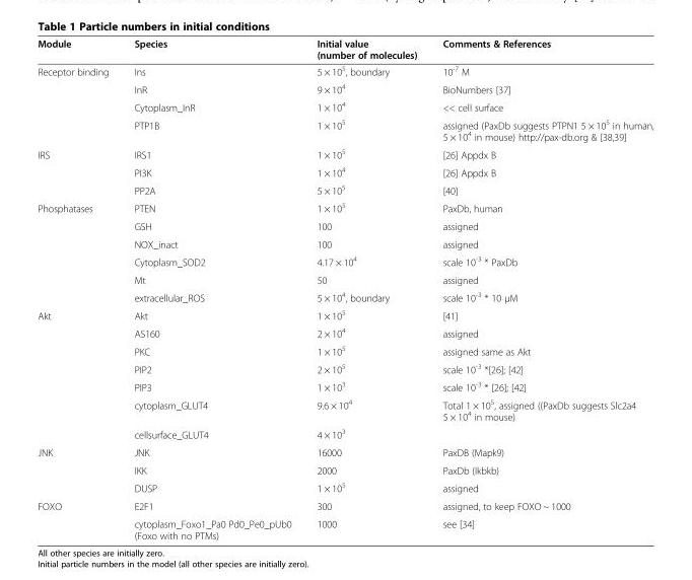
<table><thead><tr><td>Module</td><td>Species</td><td>Initial value (number of molecules)</td><td>Comments &amp; References</td></tr></thead><tbody><tr><td rowspan="4">Receptor binding</td><td>Ins</td><td>5 × 10<sup>5</sup>, boundary</td><td>10<sup>-7</sup> M</td></tr><tr><td>InR</td><td>9 × 10<sup>4</sup></td><td>BioNumbers [37]</td></tr><tr><td>Cytoplasm_InR</td><td>1 × 10<sup>4</sup></td><td>&lt;&lt; cell surface</td></tr><tr><td>PTP1B</td><td>1 × 10<sup>5</sup></td><td>assigned (PaxDb suggests PTPN1 5 × 10<sup>5</sup> in human, 5 × 10<sup>4</sup> in mouse) http://pax-db.org &amp; [38,39]</td></tr><tr><td rowspan="3">IRS</td><td>IRS1</td><td>1 × 10<sup>5</sup></td><td>[26] Appdx B</td></tr><tr><td>PI3K</td><td>1 × 10<sup>4</sup></td><td>[26] Appdx B</td></tr><tr><td>PP2A</td><td>5 × 10<sup>5</sup></td><td>[40]</td></tr><tr><td rowspan="6">Phosphatases</td><td>PTEN</td><td>1 × 10<sup>5</sup></td><td>PaxDb, human</td></tr><tr><td>GSH</td><td>100</td><td>assigned</td></tr><tr><td>NOX_inact</td><td>100</td><td>assigned</td></tr><tr><td>Cytoplasm_SOD2</td><td>4.17 × 10<sup>4</sup></td><td>scale 10<sup>-3</sup> * PaxDb</td></tr><tr><td>Mt</td><td>50</td><td>assigned</td></tr><tr><td>extracellular_ROS</td><td>5 × 10<sup>4</sup>, boundary</td><td>scale 10<sup>-3</sup> * 10 μM</td></tr><tr><td rowspan="7">Akt</td><td>Akt</td><td>1 × 10<sup>5</sup></td><td>[41]</td></tr><tr><td>AS160</td><td>2 × 10<sup>4</sup></td><td>assigned</td></tr><tr><td>PKC</td><td>1 × 10<sup>5</sup></td><td>assigned same as Akt</td></tr><tr><td>PIP2</td><td>2 × 10<sup>5</sup></td><td>scale 10<sup>-3</sup> *[26]; [42]</td></tr><tr><td>PIP3</td><td>1 × 10<sup>3</sup></td><td>scale 10<sup>-3</sup> * [26]; [42]</td></tr><tr><td>cytoplasm_GLUT4</td><td>9.6 × 10<sup>4</sup></td><td>Total 1 × 10<sup>5</sup>, assigned ((PaxDb suggests Slc2a4 5 × 10<sup>4</sup> in mouse)</td></tr><tr><td>cellsurface_GLUT4</td><td>4 × 10<sup>3</sup></td><td></td></tr><tr><td rowspan="3">JNK</td><td>JNK</td><td>16000</td><td>PaxDB (Mapk9)</td></tr><tr><td>IKK</td><td>2000</td><td>PaxDb (Ikbkb)</td></tr><tr><td>DUSP</td><td>1 × 10<sup>5</sup></td><td>assigned</td></tr><tr><td rowspan="2">FOXO</td><td>E2F1</td><td>300</td><td>assigned, to keep FOXO ~ 1000</td></tr><tr><td>cytoplasm_Foxo1_Pa0 Pd0_Pe0_pUb0 (Foxo with no PTMs)</td><td>1000</td><td>see [34]</td></tr></tbody></table>